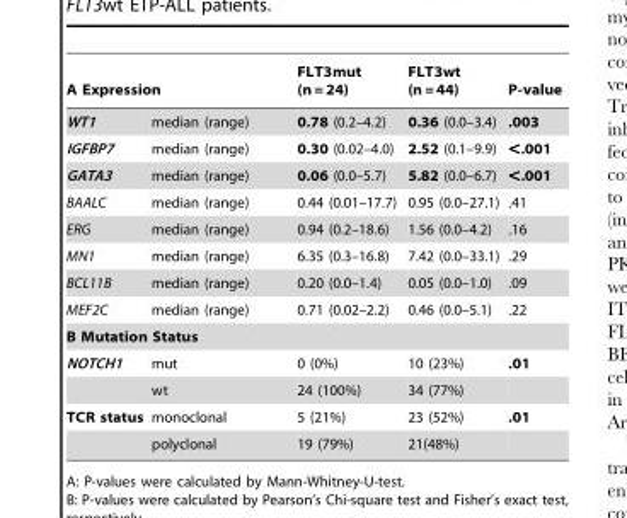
<table><thead><tr><td colspan="2">A Expression</td><td rowspan="2">FLT3mut (n = 24) 0.78 (0.2–4.2)</td><td rowspan="2">FLT3wt (n = 44) 0.36 (0.0–3.4)</td><td rowspan="2">P-value .003</td></tr><tr><td>WT1</td><td>median (range)</td></tr></thead><tbody><tr><td>IGFBP7</td><td>median (range)</td><td>0.30 (0.02–4.0)</td><td>2.52 (0.1–9.9)</td><td>&lt;.001</td></tr><tr><td>GATA3</td><td>median (range)</td><td>0.06 (0.0–5.7)</td><td>5.82 (0.0–6.7)</td><td>&lt;.001</td></tr><tr><td>BAALC</td><td>median (range)</td><td>0.44 (0.01–17.7)</td><td>0.95 (0.0–27.1)</td><td>.41</td></tr><tr><td>ERG</td><td>median (range)</td><td>0.94 (0.2–18.6)</td><td>1.56 (0.0–4.2)</td><td>.16</td></tr><tr><td>MN1</td><td>median (range)</td><td>6.35 (0.3–16.8)</td><td>7.42 (0.0–33.1)</td><td>.29</td></tr><tr><td>BCL11B</td><td>median (range)</td><td>0.20 (0.0–1.4)</td><td>0.05 (0.0–1.0)</td><td>.09</td></tr><tr><td>MEF2C</td><td>median (range)</td><td>0.71 (0.02–2.2)</td><td>0.46 (0.0–5.1)</td><td>.22</td></tr><tr><td colspan="5">B Mutation Status</td></tr><tr><td rowspan="2">NOTCH1</td><td>mut</td><td>0 (0%)</td><td>10 (23%)</td><td>.01</td></tr><tr><td>wt</td><td>24 (100%)</td><td>34 (77%)</td><td></td></tr><tr><td rowspan="2">TCR status</td><td>monoclonal</td><td>5 (21%)</td><td>23 (52%)</td><td>.01</td></tr><tr><td>polyclonal</td><td>19 (79%)</td><td>21(48%)</td><td></td></tr></tbody></table>